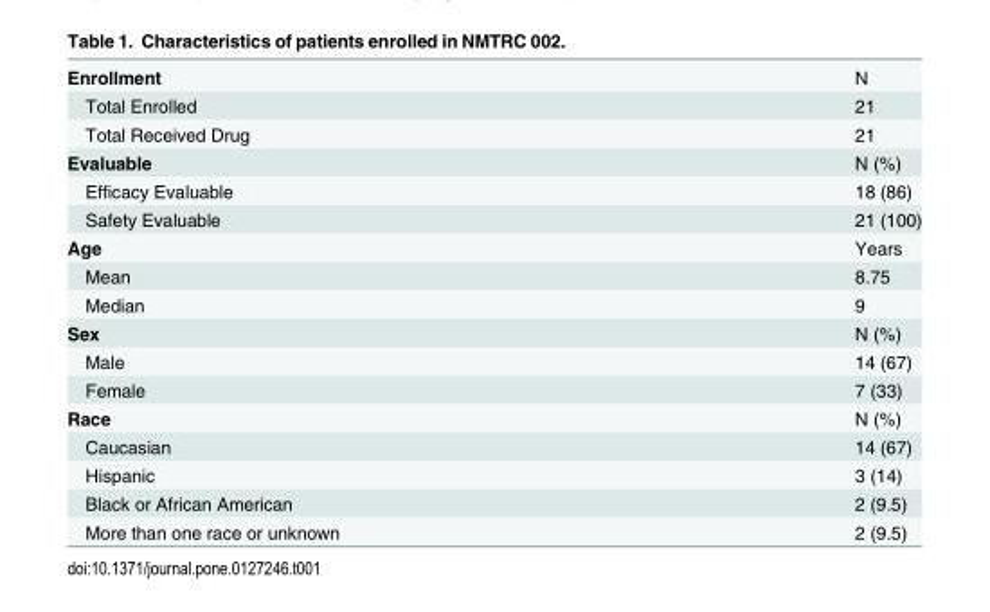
<table><tbody><tr><td>Enrollment</td><td>N</td></tr><tr><td>Total Enrolled</td><td>21</td></tr><tr><td>Total Received Drug</td><td>21</td></tr><tr><td>Evaluable</td><td>N (%)</td></tr><tr><td>Efficacy Evaluable</td><td>18 (86)</td></tr><tr><td>Safety Evaluable</td><td>21 (100)</td></tr><tr><td>Age</td><td>Years</td></tr><tr><td>Mean</td><td>8.75</td></tr><tr><td>Median</td><td>9</td></tr><tr><td>Sex</td><td>N (%)</td></tr><tr><td>Male</td><td>14 (67)</td></tr><tr><td>Female</td><td>7 (33)</td></tr><tr><td>Race</td><td>N (%)</td></tr><tr><td>Caucasian</td><td>14 (67)</td></tr><tr><td>Hispanic</td><td>3 (14)</td></tr><tr><td>Black or African American</td><td>2 (9.5)</td></tr><tr><td>More than one race or unknown</td><td>2 (9.5)</td></tr></tbody></table>